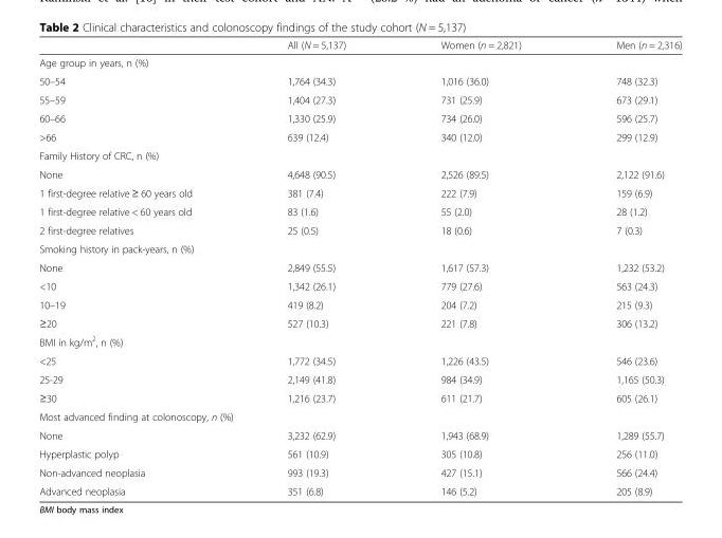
<table><thead><tr><td></td><td>All (N = 5,137)</td><td>Women (n = 2,821)</td><td>Men (n = 2,316)</td></tr></thead><tbody><tr><td colspan="4">Age group in years, n (%)</td></tr><tr><td>50–54</td><td>1,764 (34.3)</td><td>1,016 (36.0)</td><td>748 (32.3)</td></tr><tr><td>55–59</td><td>1,404 (27.3)</td><td>731 (25.9)</td><td>673 (29.1)</td></tr><tr><td>60–66</td><td>1,330 (25.9)</td><td>734 (26.0)</td><td>596 (25.7)</td></tr><tr><td>&gt;66</td><td>639 (12.4)</td><td>340 (12.0)</td><td>299 (12.9)</td></tr><tr><td colspan="4">Family History of CRC, n (%)</td></tr><tr><td>None</td><td>4,648 (90.5)</td><td>2,526 (89.5)</td><td>2,122 (91.6)</td></tr><tr><td>1 first-degree relative ≥ 60 years old</td><td>381 (7.4)</td><td>222 (7.9)</td><td>159 (6.9)</td></tr><tr><td>1 first-degree relative &lt; 60 years old</td><td>83 (1.6)</td><td>55 (2.0)</td><td>28 (1.2)</td></tr><tr><td>2 first-degree relatives</td><td>25 (0.5)</td><td>18 (0.6)</td><td>7 (0.3)</td></tr><tr><td colspan="4">Smoking history in pack-years, n (%)</td></tr><tr><td>None</td><td>2,849 (55.5)</td><td>1,617 (57.3)</td><td>1,232 (53.2)</td></tr><tr><td>&lt;10</td><td>1,342 (26.1)</td><td>779 (27.6)</td><td>563 (24.3)</td></tr><tr><td>10–19</td><td>419 (8.2)</td><td>204 (7.2)</td><td>215 (9.3)</td></tr><tr><td>≥20</td><td>527 (10.3)</td><td>221 (7.8)</td><td>306 (13.2)</td></tr><tr><td colspan="4">BMI in kg/m<sup>2</sup>, n (%)</td></tr><tr><td>&lt;25</td><td>1,772 (34.5)</td><td>1,226 (43.5)</td><td>546 (23.6)</td></tr><tr><td>25-29</td><td>2,149 (41.8)</td><td>984 (34.9)</td><td>1,165 (50.3)</td></tr><tr><td>≥30</td><td>1,216 (23.7)</td><td>611 (21.7)</td><td>605 (26.1)</td></tr><tr><td colspan="4">Most advanced finding at colonoscopy, n (%)</td></tr><tr><td>None</td><td>3,232 (62.9)</td><td>1,943 (68.9)</td><td>1,289 (55.7)</td></tr><tr><td>Hyperplastic polyp</td><td>561 (10.9)</td><td>305 (10.8)</td><td>256 (11.0)</td></tr><tr><td>Non-advanced neoplasia</td><td>993 (19.3)</td><td>427 (15.1)</td><td>566 (24.4)</td></tr><tr><td>Advanced neoplasia</td><td>351 (6.8)</td><td>146 (5.2)</td><td>205 (8.9)</td></tr></tbody></table>